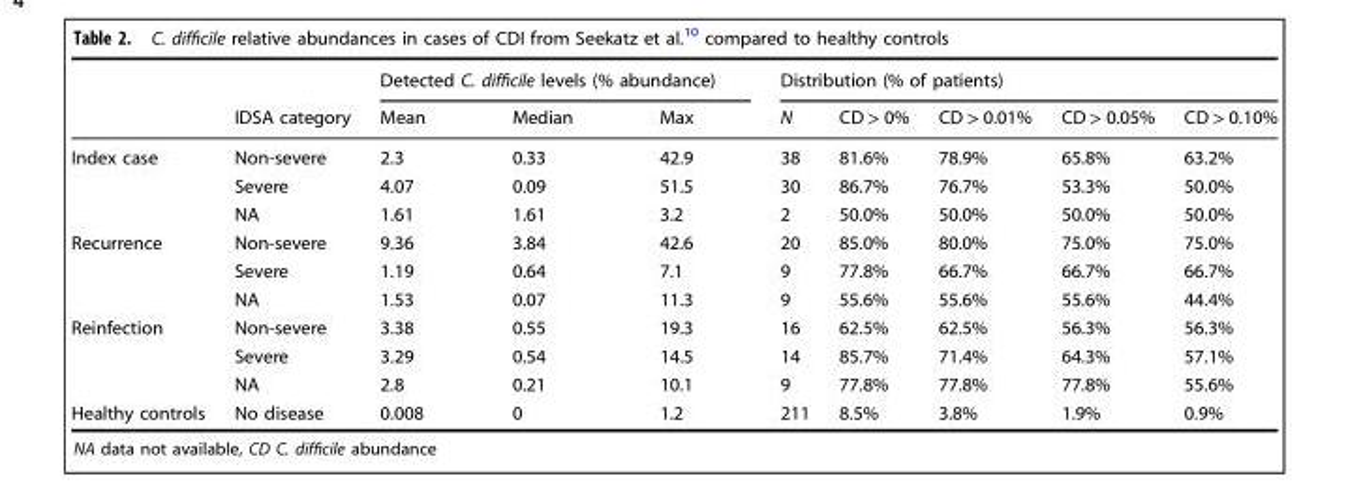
<table><thead><tr><td rowspan="2"></td><td rowspan="2">IDSA category</td><td colspan="3">Detected C. difficile levels (% abundance)</td><td colspan="5">Distribution (% of patients)</td></tr><tr><td>Mean</td><td>Median</td><td>Max</td><td>N</td><td>CD &gt; 0%</td><td>CD &gt; 0.01%</td><td>CD &gt; 0.05%</td><td>CD &gt; 0.10%</td></tr></thead><tbody><tr><td rowspan="3">Index case</td><td>Non-severe</td><td>2.3</td><td>0.33</td><td>42.9</td><td>38</td><td>81.6%</td><td>78.9%</td><td>65.8%</td><td>63.2%</td></tr><tr><td>Severe</td><td>4.07</td><td>0.09</td><td>51.5</td><td>30</td><td>86.7%</td><td>76.7%</td><td>53.3%</td><td>50.0%</td></tr><tr><td>NA</td><td>1.61</td><td>1.61</td><td>3.2</td><td>2</td><td>50.0%</td><td>50.0%</td><td>50.0%</td><td>50.0%</td></tr><tr><td rowspan="3">Recurrence</td><td>Non-severe</td><td>9.36</td><td>3.84</td><td>42.6</td><td>20</td><td>85.0%</td><td>80.0%</td><td>75.0%</td><td>75.0%</td></tr><tr><td>Severe</td><td>1.19</td><td>0.64</td><td>7.1</td><td>9</td><td>77.8%</td><td>66.7%</td><td>66.7%</td><td>66.7%</td></tr><tr><td>NA</td><td>1.53</td><td>0.07</td><td>11.3</td><td>9</td><td>55.6%</td><td>55.6%</td><td>55.6%</td><td>44.4%</td></tr><tr><td rowspan="3">Reinfection</td><td>Non-severe</td><td>3.38</td><td>0.55</td><td>19.3</td><td>16</td><td>62.5%</td><td>62.5%</td><td>56.3%</td><td>56.3%</td></tr><tr><td>Severe</td><td>3.29</td><td>0.54</td><td>14.5</td><td>14</td><td>85.7%</td><td>71.4%</td><td>64.3%</td><td>57.1%</td></tr><tr><td>NA</td><td>2.8</td><td>0.21</td><td>10.1</td><td>9</td><td>77.8%</td><td>77.8%</td><td>77.8%</td><td>55.6%</td></tr><tr><td>Healthy controls</td><td>No disease</td><td>0.008</td><td>0</td><td>1.2</td><td>211</td><td>8.5%</td><td>3.8%</td><td>1.9%</td><td>0.9%</td></tr></tbody></table>